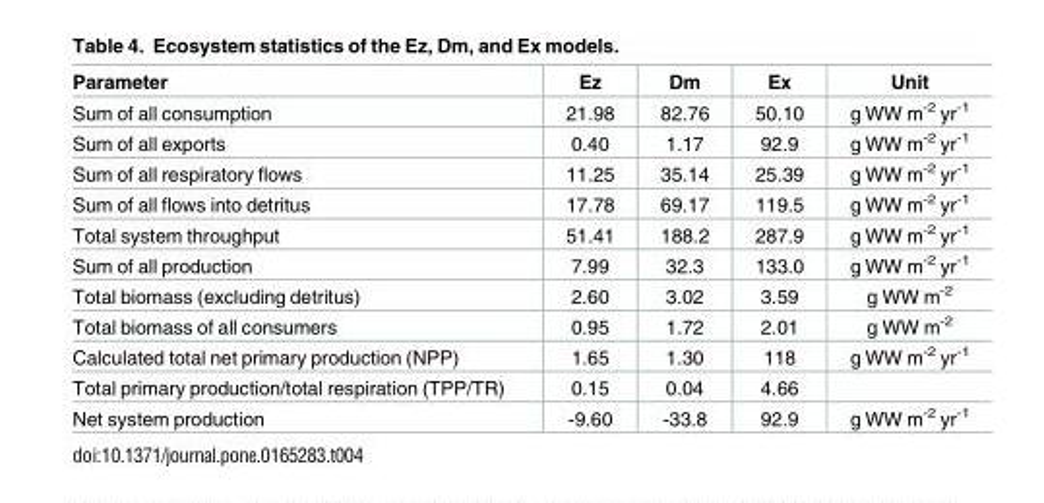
<table><thead><tr><td>Parameter</td><td>Ez</td><td>Dm</td><td>Ex</td><td>Unit</td></tr></thead><tbody><tr><td>Sum of all consumption</td><td>21.98</td><td>82.76</td><td>50.10</td><td>g WW m<sup>-2</sup> yr<sup>-1</sup></td></tr><tr><td>Sum of all exports</td><td>0.40</td><td>1.17</td><td>92.9</td><td>g WW m<sup>-2</sup> yr<sup>-1</sup></td></tr><tr><td>Sum of all respiratory flows</td><td>11.25</td><td>35.14</td><td>25.39</td><td>g WW m<sup>-2</sup> yr<sup>-1</sup></td></tr><tr><td>Sum of all flows into detritus</td><td>17.78</td><td>69.17</td><td>119.5</td><td>g WW m<sup>-2</sup> yr<sup>-1</sup></td></tr><tr><td>Total system throughput</td><td>51.41</td><td>188.2</td><td>287.9</td><td>g WW m<sup>-2</sup> yr<sup>-1</sup></td></tr><tr><td>Sum of all production</td><td>7.99</td><td>32.3</td><td>133.0</td><td>g WW m<sup>-2</sup> yr<sup>-1</sup></td></tr><tr><td>Total biomass (excluding detritus)</td><td>2.60</td><td>3.02</td><td>3.59</td><td>g WW m<sup>-2</sup></td></tr><tr><td>Total biomass of all consumers</td><td>0.95</td><td>1.72</td><td>2.01</td><td>g WW m<sup>-2</sup></td></tr><tr><td>Calculated total net primary production (NPP)</td><td>1.65</td><td>1.30</td><td>118</td><td>g WW m<sup>-2</sup> yr<sup>-1</sup></td></tr><tr><td>Total primary production/total respiration (TPP/TR)</td><td>0.15</td><td>0.04</td><td>4.66</td><td></td></tr><tr><td>Net system production</td><td>-9.60</td><td>-33.8</td><td>92.9</td><td>g WW m<sup>-2</sup> yr<sup>-1</sup></td></tr></tbody></table>